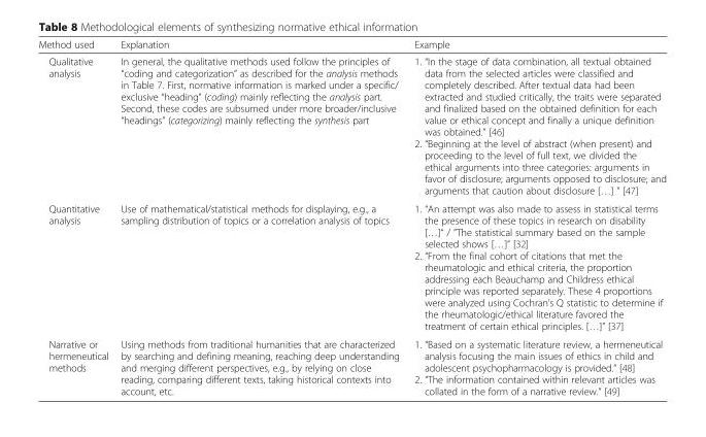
<table><thead><tr><td>Method used</td><td>Explanation</td><td>Example</td></tr></thead><tbody><tr><td>Qualitative analysis</td><td>In general, the qualitative methods used follow the principles of “coding and categorization” as described for the analysis methods in Table 7. First, normative information is marked under a specific/ exclusive “heading” (coding) mainly reflecting the analysis part. Second, these codes are subsumed under more broader/inclusive “headings” (categorizing) mainly reflecting the synthesis part</td><td>1. “In the stage of data combination, all textual obtained data from the selected articles were classified and completely described. After textual data had been extracted and studied critically, the traits were separated and finalized based on the obtained definition for each value or ethical concept and finally a unique definition was obtained.” [46] 2. “Beginning at the level of abstract (when present) and proceeding to the level of full text, we divided the ethical arguments into three categories: arguments in favor of disclosure; arguments opposed to disclosure; and arguments that caution about disclosure […] ” [47]</td></tr><tr><td>Quantitative analysis</td><td>Use of mathematical/statistical methods for displaying, e.g., a sampling distribution of topics or a correlation analysis of topics</td><td>1. “An attempt was also made to assess in statistical terms the presence of these topics in research on disability […]“ / ”The statistical summary based on the sample selected shows […]” [32] 2. “From the final cohort of citations that met the rheumatologic and ethical criteria, the proportion addressing each Beauchamp and Childress ethical principle was reported separately. These 4 proportions were analyzed using Cochran’s Q statistic to determine if the rheumatologic/ethical literature favored the treatment of certain ethical principles. […]” [37]</td></tr><tr><td>Narrative or hermeneutical methods</td><td>Using methods from traditional humanities that are characterized by searching and defining meaning, reaching deep understanding and merging different perspectives, e.g., by relying on close reading, comparing different texts, taking historical contexts into account, etc.</td><td>1. “Based on a systematic literature review, a hermeneutical analysis focusing the main issues of ethics in child and adolescent psychopharmacology is provided.” [48] 2. “The information contained within relevant articles was collated in the form of a narrative review.” [49]</td></tr></tbody></table>